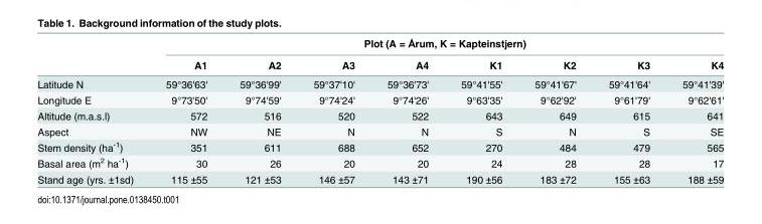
<table><thead><tr><td rowspan="2"></td><td colspan="8">Plot (A = Årum, K = Kapteinstjern)</td></tr><tr><td>A1</td><td>A2</td><td>A3</td><td>A4</td><td>K1</td><td>K2</td><td>K3</td><td>K4</td></tr></thead><tbody><tr><td>Latitude N</td><td>59°36&#x27;63&#x27;</td><td>59°36&#x27;99&#x27;</td><td>59°37&#x27;10&#x27;</td><td>59°36&#x27;73&#x27;</td><td>59°41&#x27;55&#x27;</td><td>59°41&#x27;67&#x27;</td><td>59°41&#x27;64&#x27;</td><td>59°41&#x27;39&#x27;</td></tr><tr><td>Longitude E</td><td>9°73&#x27;50&#x27;</td><td>9°74&#x27;59&#x27;</td><td>9°74&#x27;24&#x27;</td><td>9°74&#x27;26&#x27;</td><td>9°63&#x27;35&#x27;</td><td>9°62&#x27;92&#x27;</td><td>9°61&#x27;79&#x27;</td><td>9°62&#x27;61&#x27;</td></tr><tr><td>Altitude (m.a.s.l)</td><td>572</td><td>516</td><td>520</td><td>522</td><td>643</td><td>649</td><td>615</td><td>641</td></tr><tr><td>Aspect</td><td>NW</td><td>NE</td><td>N</td><td>N</td><td>S</td><td>N</td><td>S</td><td>SE</td></tr><tr><td>Stem density (ha<sup>-1</sup>)</td><td>351</td><td>611</td><td>688</td><td>652</td><td>270</td><td>484</td><td>479</td><td>565</td></tr><tr><td>Basal area (m<sup>2</sup> ha<sup>-1</sup>)</td><td>30</td><td>26</td><td>20</td><td>20</td><td>24</td><td>28</td><td>28</td><td>17</td></tr><tr><td>Stand age (yrs. ±1sd)</td><td>115 ±55</td><td>121 ±53</td><td>146 ±57</td><td>143 ±71</td><td>190 ±56</td><td>183 ±72</td><td>155 ±63</td><td>188 ±59</td></tr></tbody></table>